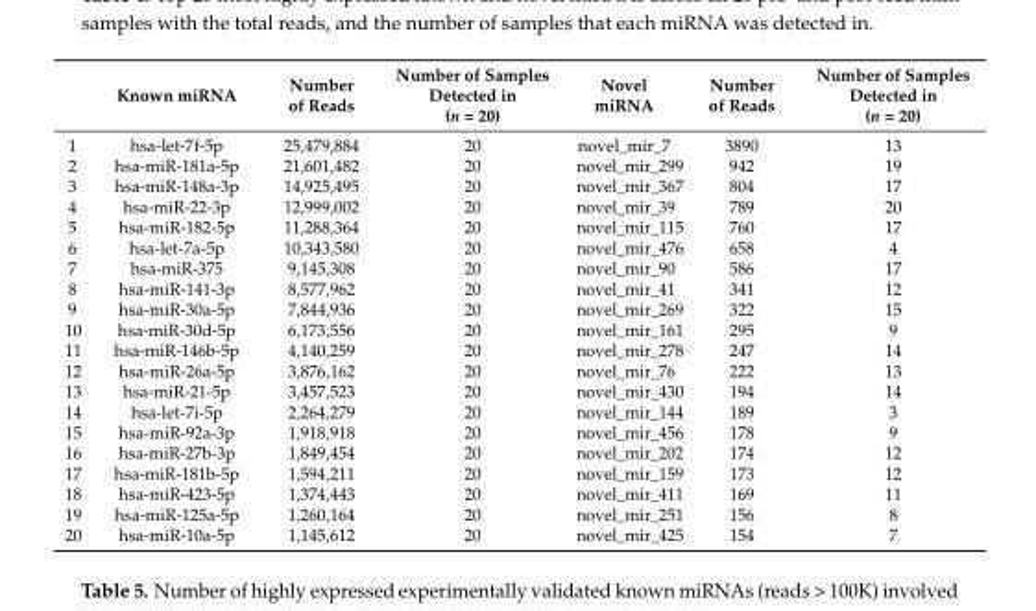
<table><thead><tr><td></td><td>Known miRNA</td><td>Number of Reads</td><td>Number of Samples Detected in (n = 20)</td><td>Novel miRNA</td><td>Number of Reads</td><td>Number of Samples Detected in (n = 20)</td></tr></thead><tbody><tr><td>1</td><td>hsa-let-7f-5p</td><td>25,479,884</td><td>20</td><td>novel_mir_7</td><td>3890</td><td>13</td></tr><tr><td>2</td><td>hsa-miR-181a-5p</td><td>21,601,482</td><td>20</td><td>novel_mir_299</td><td>942</td><td>19</td></tr><tr><td>3</td><td>hsa-miR-148a-3p</td><td>14,925,495</td><td>20</td><td>novel_mir_367</td><td>804</td><td>17</td></tr><tr><td>4</td><td>hsa-miR-22-3p</td><td>12,999,002</td><td>20</td><td>novel_mir_39</td><td>789</td><td>20</td></tr><tr><td>5</td><td>hsa-miR-182-5p</td><td>11,288,364</td><td>20</td><td>novel_mir_115</td><td>760</td><td>17</td></tr><tr><td>6</td><td>hsa-let-7a-5p</td><td>10,343,580</td><td>20</td><td>novel_mir_476</td><td>658</td><td>4</td></tr><tr><td>7</td><td>hsa-miR-375</td><td>9,145,308</td><td>20</td><td>novel_mir_90</td><td>586</td><td>17</td></tr><tr><td>8</td><td>hsa-miR-141-3p</td><td>8,577,962</td><td>20</td><td>novel_mir_41</td><td>341</td><td>12</td></tr><tr><td>9</td><td>hsa-miR-30a-5p</td><td>7,844,936</td><td>20</td><td>novel_mir_269</td><td>322</td><td>15</td></tr><tr><td>10</td><td>hsa-miR-30d-5p</td><td>6,173,556</td><td>20</td><td>novel_mir_161</td><td>295</td><td>9</td></tr><tr><td>11</td><td>hsa-miR-146b-5p</td><td>4,140,259</td><td>20</td><td>novel_mir_278</td><td>247</td><td>14</td></tr><tr><td>12</td><td>hsa-miR-26a-5p</td><td>3,876,162</td><td>20</td><td>novel_mir_76</td><td>222</td><td>13</td></tr><tr><td>13</td><td>hsa-miR-21-5p</td><td>3,457,523</td><td>20</td><td>novel_mir_430</td><td>194</td><td>14</td></tr><tr><td>14</td><td>hsa-let-7i-5p</td><td>2,264,279</td><td>20</td><td>novel_mir_144</td><td>189</td><td>3</td></tr><tr><td>15</td><td>hsa-miR-92a-3p</td><td>1,918,918</td><td>20</td><td>novel_mir_456</td><td>178</td><td>9</td></tr><tr><td>16</td><td>hsa-miR-27b-3p</td><td>1,849,454</td><td>20</td><td>novel_mir_202</td><td>174</td><td>12</td></tr><tr><td>17</td><td>hsa-miR-181b-5p</td><td>1,594,211</td><td>20</td><td>novel_mir_159</td><td>173</td><td>12</td></tr><tr><td>18</td><td>hsa-miR-423-5p</td><td>1,374,443</td><td>20</td><td>novel_mir_411</td><td>169</td><td>11</td></tr><tr><td>19</td><td>hsa-miR-125a-5p</td><td>1,260,164</td><td>20</td><td>novel_mir_251</td><td>156</td><td>8</td></tr><tr><td>20</td><td>hsa-miR-10a-5p</td><td>1,145,612</td><td>20</td><td>novel_mir_425</td><td>154</td><td>7</td></tr></tbody></table>